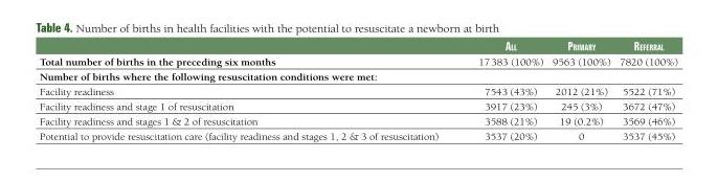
<table><thead><tr><td></td><td>all</td><td>primary</td><td>referral</td></tr></thead><tbody><tr><td>Total number of births in the preceding six months</td><td>17 383 (100%)</td><td>9563 (100%)</td><td>7820 (100%)</td></tr><tr><td colspan="4">Number of births where the following resuscitation conditions were met:</td></tr><tr><td>Facility readiness</td><td>7543 (43%)</td><td>2012 (21%)</td><td>5522 (71%)</td></tr><tr><td>Facility readiness and stage 1 of resuscitation</td><td>3917 (23%)</td><td>245 (3%)</td><td>3672 (47%)</td></tr><tr><td>Facility readiness and stages 1 &amp; 2 of resuscitation</td><td>3588 (21%)</td><td>19 (0.2%)</td><td>3569 (46%)</td></tr><tr><td>Potential to provide resuscitation care (facility readiness and stages 1, 2 &amp; 3 of resuscitation)</td><td>3537 (20%)</td><td>0</td><td>3537 (45%)</td></tr></tbody></table>